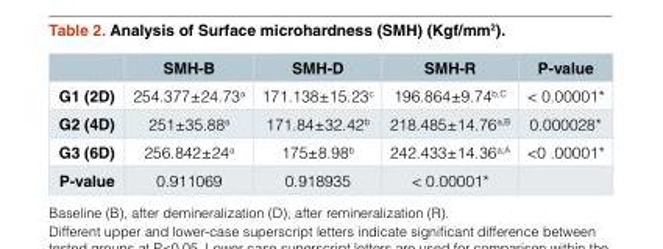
<table><thead><tr><td></td><td>SMH-B</td><td>SMH-D</td><td>SMH-R</td><td>P-value</td></tr></thead><tbody><tr><td>G1 (2D)</td><td>254.377±24.73<sup>a</sup></td><td>171.138±15.23<sup>c</sup></td><td>196.864±9.74<sup>b,C</sup></td><td>&lt; 0.00001*</td></tr><tr><td>G2 (4D)</td><td>251±35.88<sup>a</sup></td><td>171.84±32.42<sup>b</sup></td><td>218.485±14.76<sup>a,B</sup></td><td>0.000028*</td></tr><tr><td>G3 (6D)</td><td>256.842±24<sup>a</sup></td><td>175±8.98<sup>b</sup></td><td>242.433±14.36<sup>a;A</sup></td><td>&lt;0 .00001*</td></tr><tr><td>P-value</td><td>0.911069</td><td>0.918935</td><td>&lt; 0.00001*</td><td></td></tr></tbody></table>